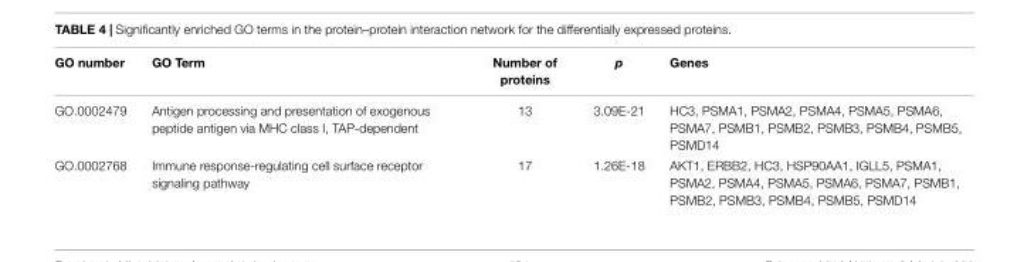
<table><thead><tr><td>GO number</td><td>GO Term</td><td>Number of proteins</td><td>p</td><td>Genes</td></tr></thead><tbody><tr><td>GO.0002479</td><td>Antigen processing and presentation of exogenous peptide antigen via MHC class I, TAP-dependent</td><td>13</td><td>3.09E-21</td><td>HC3, PSMA1, PSMA2, PSMA4, PSMA5, PSMA6, PSMA7, PSMB1, PSMB2, PSMB3, PSMB4, PSMB5, PSMD14</td></tr><tr><td>GO.0002768</td><td>Immune response-regulating cell surface receptor signaling pathway</td><td>17</td><td>1.26E-18</td><td>AKT1, ERBB2, HC3, HSP90AA1, IGLL5, PSMA1, PSMA2, PSMA4, PSMA5, PSMA6, PSMA7, PSMB1, PSMB2, PSMB3, PSMB4, PSMB5, PSMD14</td></tr></tbody></table>